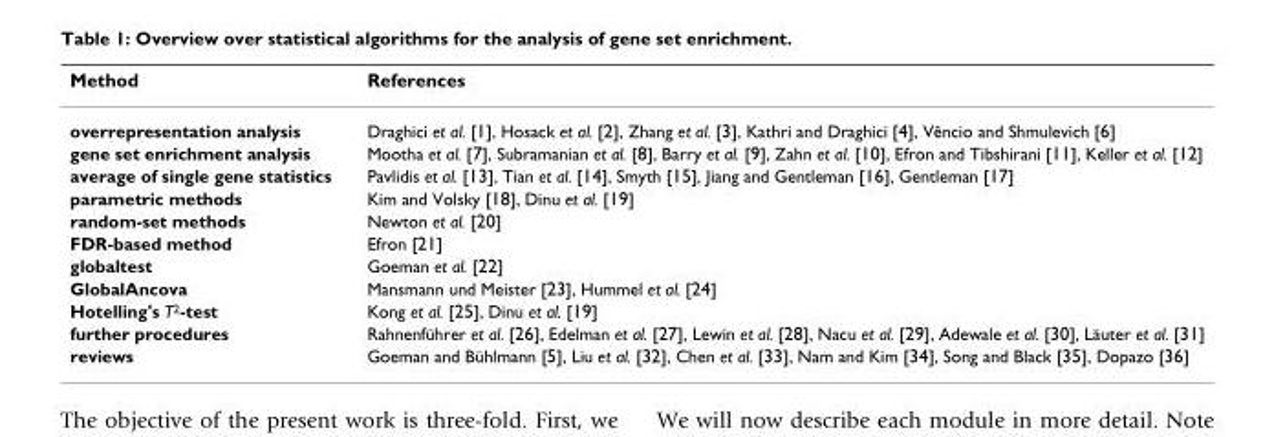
<table><thead><tr><td>Method</td><td>References</td></tr></thead><tbody><tr><td>overrepresentation analysis</td><td>Draghici et al. [1], Hosack et al. [2], Zhang et al. [3], Kathri and Draghici [4], Vêncio and Shmulevich [6]</td></tr><tr><td>gene set enrichment analysis</td><td>Mootha et al. [7], Subramanian et al. [8], Barry et al. [9], Zahn et al. [10], Efron and Tibshirani [11], Keller et al. [12]</td></tr><tr><td>average of single gene statistics</td><td>Pavlidis et al. [13], Tian et al. [14], Smyth [15], Jiang and Gentleman [16], Gentleman [17]</td></tr><tr><td>parametric methods</td><td>Kim and Volsky [18], Dinu et al. [19]</td></tr><tr><td>random-set methods</td><td>Newton et al. [20]</td></tr><tr><td>FDR-based method</td><td>Efron [21]</td></tr><tr><td>globaltest</td><td>Goeman et al. [22]</td></tr><tr><td>GlobalAncova</td><td>Mansmann und Meister [23], Hummel et al. [24]</td></tr><tr><td>Hotelling&#x27;s T<sup>2</sup>-test</td><td>Kong et al. [25], Dinu et al. [19]</td></tr><tr><td>further procedures</td><td>Rahnenführer et al. [26], Edelman et al. [27], Lewin et al. [28], Nacu et al. [29], Adewale et al. [30], Läuter et al. [31]</td></tr><tr><td>reviews</td><td>Goeman and Bühlmann [5], Liu et al. [32], Chen et al. [33], Nam and Kim [34], Song and Black [35], Dopazo [36]</td></tr></tbody></table>